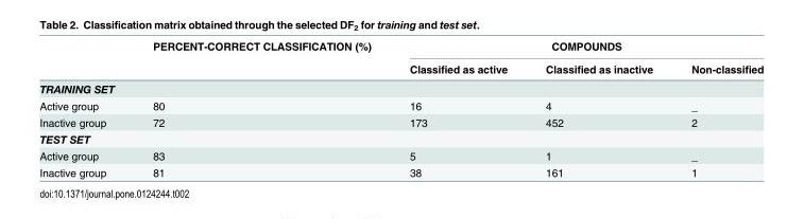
<table><thead><tr><td rowspan="2"></td><td rowspan="2">PERCENT-CORRECT CLASSIFICATION (%)</td><td colspan="3">COMPOUNDS</td></tr><tr><td>Classified as active</td><td>Classified as inactive</td><td>Non-classified</td></tr></thead><tbody><tr><td colspan="5">TRAINING SET</td></tr><tr><td>Active group</td><td>80</td><td>16</td><td>4</td><td>_</td></tr><tr><td>Inactive group</td><td>72</td><td>173</td><td>452</td><td>2</td></tr><tr><td colspan="5">TEST SET</td></tr><tr><td>Active group</td><td>83</td><td>5</td><td>1</td><td>_</td></tr><tr><td>Inactive group</td><td>81</td><td>38</td><td>161</td><td>1</td></tr></tbody></table>